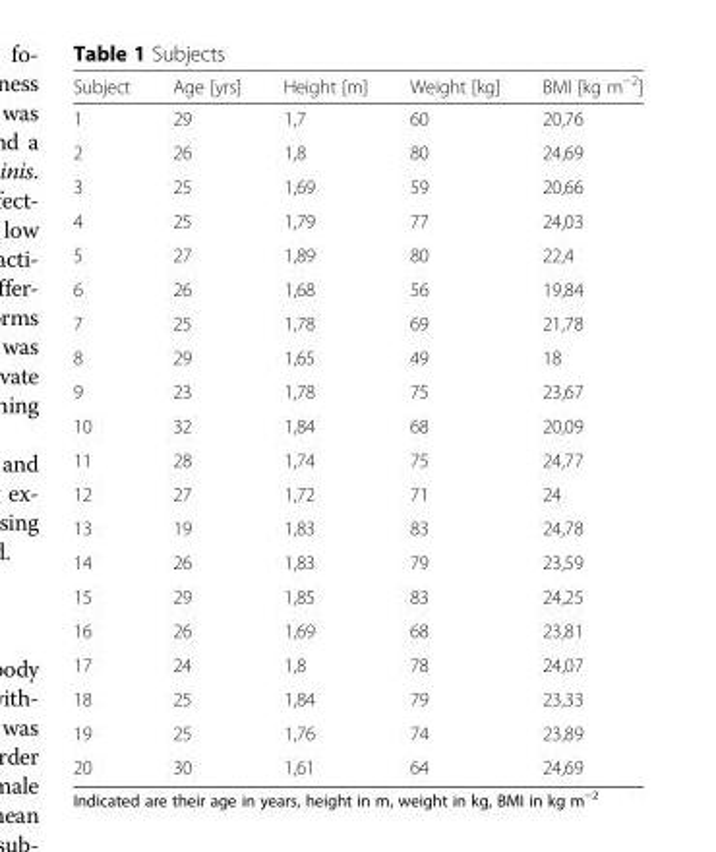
<table><thead><tr><td>Subject</td><td>Age [yrs]</td><td>Height [m]</td><td>Weight [kg]</td><td>BMI [kg m<sup>−2</sup>]</td></tr></thead><tbody><tr><td>1</td><td>29</td><td>1,7</td><td>60</td><td>20,76</td></tr><tr><td>2</td><td>26</td><td>1,8</td><td>80</td><td>24,69</td></tr><tr><td>3</td><td>25</td><td>1,69</td><td>59</td><td>20,66</td></tr><tr><td>4</td><td>25</td><td>1,79</td><td>77</td><td>24,03</td></tr><tr><td>5</td><td>27</td><td>1,89</td><td>80</td><td>22,4</td></tr><tr><td>6</td><td>26</td><td>1,68</td><td>56</td><td>19,84</td></tr><tr><td>7</td><td>25</td><td>1,78</td><td>69</td><td>21,78</td></tr><tr><td>8</td><td>29</td><td>1,65</td><td>49</td><td>18</td></tr><tr><td>9</td><td>23</td><td>1,78</td><td>75</td><td>23,67</td></tr><tr><td>10</td><td>32</td><td>1,84</td><td>68</td><td>20,09</td></tr><tr><td>11</td><td>28</td><td>1,74</td><td>75</td><td>24,77</td></tr><tr><td>12</td><td>27</td><td>1,72</td><td>71</td><td>24</td></tr><tr><td>13</td><td>19</td><td>1,83</td><td>83</td><td>24,78</td></tr><tr><td>14</td><td>26</td><td>1,83</td><td>79</td><td>23,59</td></tr><tr><td>15</td><td>29</td><td>1,85</td><td>83</td><td>24,25</td></tr><tr><td>16</td><td>26</td><td>1,69</td><td>68</td><td>23,81</td></tr><tr><td>17</td><td>24</td><td>1,8</td><td>78</td><td>24,07</td></tr><tr><td>18</td><td>25</td><td>1,84</td><td>79</td><td>23,33</td></tr><tr><td>19</td><td>25</td><td>1,76</td><td>74</td><td>23,89</td></tr><tr><td>20</td><td>30</td><td>1,61</td><td>64</td><td>24,69</td></tr></tbody></table>